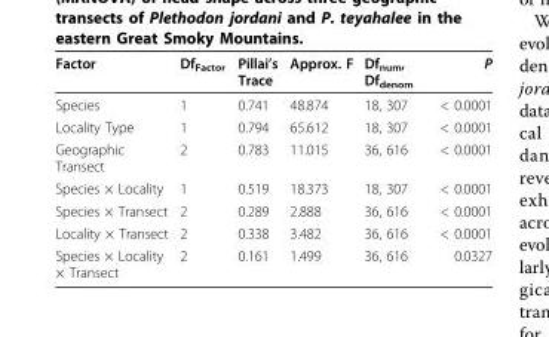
<table><thead><tr><td>Factor</td><td>Df<sub>Factor</sub></td><td>Pillai’s Trace</td><td>Approx. F</td><td>Df<sub>num</sub>, Df<sub>denom</sub></td><td>P</td></tr></thead><tbody><tr><td>Species</td><td>1</td><td>0.741</td><td>48.874</td><td>18, 307</td><td>&lt; 0.0001</td></tr><tr><td>Locality Type</td><td>1</td><td>0.794</td><td>65.612</td><td>18, 307</td><td>&lt; 0.0001</td></tr><tr><td>Geographic Transect</td><td>2</td><td>0.783</td><td>11.015</td><td>36, 616</td><td>&lt; 0.0001</td></tr><tr><td>Species × Locality</td><td>1</td><td>0.519</td><td>18.373</td><td>18, 307</td><td>&lt; 0.0001</td></tr><tr><td>Species × Transect</td><td>2</td><td>0.289</td><td>2.888</td><td>36, 616</td><td>&lt; 0.0001</td></tr><tr><td>Locality × Transect</td><td>2</td><td>0.338</td><td>3.482</td><td>36, 616</td><td>&lt; 0.0001</td></tr><tr><td>Species × Locality × Transect</td><td>2</td><td>0.161</td><td>1.499</td><td>36, 616</td><td>0.0327</td></tr></tbody></table>